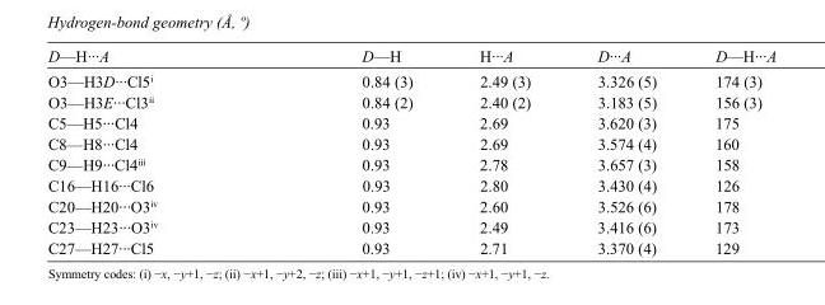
<table><tbody><tr><td>D—H···A</td><td>D—H</td><td>H···A</td><td>D···A</td><td>D—H···A</td></tr><tr><td>O3—H3D···Cl5<sup>i</sup></td><td>0.84 (3)</td><td>2.49 (3)</td><td>3.326 (5)</td><td>174 (3)</td></tr><tr><td>O3—H3E···Cl3<sup>ii</sup></td><td>0.84 (2)</td><td>2.40 (2)</td><td>3.183 (5)</td><td>156 (3)</td></tr><tr><td>C5—H5···Cl4</td><td>0.93</td><td>2.69</td><td>3.620 (3)</td><td>175</td></tr><tr><td>C8—H8···Cl4</td><td>0.93</td><td>2.69</td><td>3.574 (4)</td><td>160</td></tr><tr><td>C9—H9···Cl4<sup>iii</sup></td><td>0.93</td><td>2.78</td><td>3.657 (3)</td><td>158</td></tr><tr><td>C16—H16···Cl6</td><td>0.93</td><td>2.80</td><td>3.430 (4)</td><td>126</td></tr><tr><td>C20—H20···O3<sup>iv</sup></td><td>0.93</td><td>2.60</td><td>3.526 (6)</td><td>178</td></tr><tr><td>C23—H23···O3<sup>iv</sup></td><td>0.93</td><td>2.49</td><td>3.416 (6)</td><td>173</td></tr><tr><td>C27—H27···Cl5</td><td>0.93</td><td>2.71</td><td>3.370 (4)</td><td>129</td></tr></tbody></table>